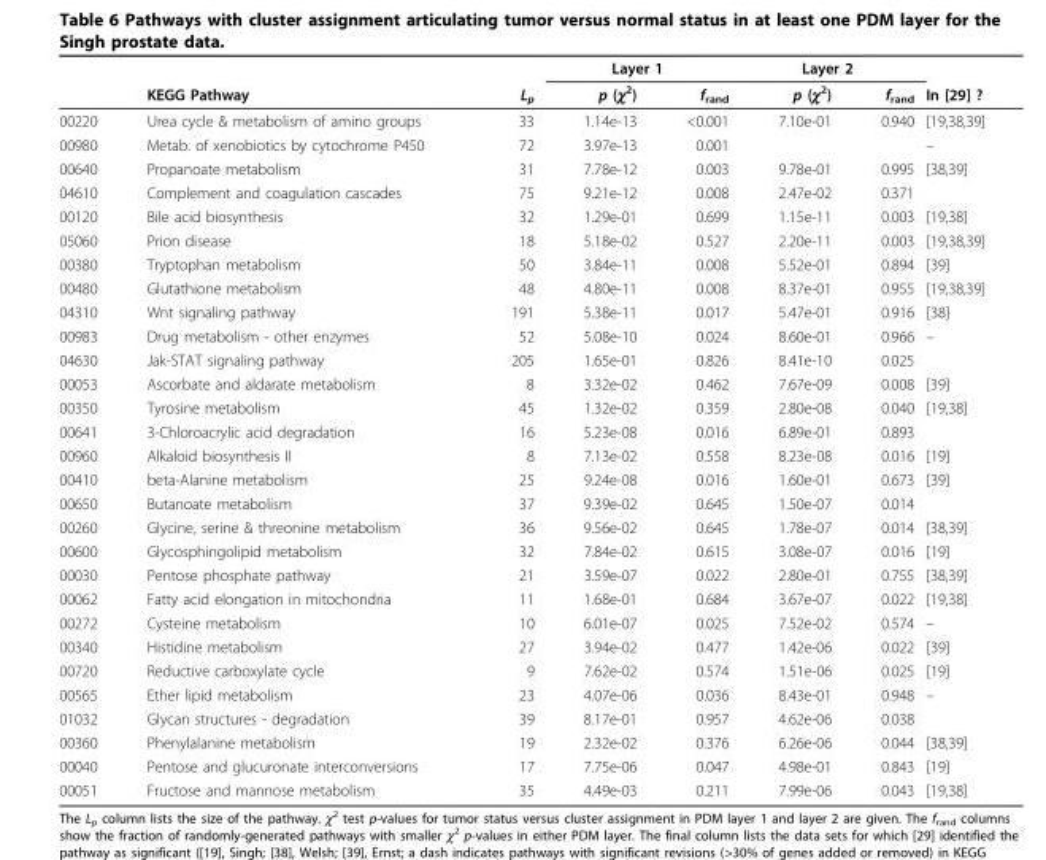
<table><thead><tr><td rowspan="2"></td><td rowspan="2">KEGG Pathway</td><td rowspan="2">L<sub>p</sub></td><td colspan="2">Layer 1</td><td colspan="2">Layer 2</td><td rowspan="2">In [29] ?</td></tr><tr><td>p (χ<sup>2</sup>)</td><td>f<sub>rand</sub></td><td>p (χ<sup>2</sup>)</td><td>f<sub>rand</sub></td></tr></thead><tbody><tr><td>00220</td><td>Urea cycle &amp; metabolism of amino groups</td><td>33</td><td>1.14e-13</td><td>&lt;0.001</td><td>7.10e-01</td><td>0.940</td><td>[19,38,39]</td></tr><tr><td>00980</td><td>Metab. of xenobiotics by cytochrome P450</td><td>72</td><td>3.97e-13</td><td>0.001</td><td></td><td></td><td>–</td></tr><tr><td>00640</td><td>Propanoate metabolism</td><td>31</td><td>7.78e-12</td><td>0.003</td><td>9.78e-01</td><td>0.995</td><td>[38,39]</td></tr><tr><td>04610</td><td>Complement and coagulation cascades</td><td>75</td><td>9.21e-12</td><td>0.008</td><td>2.47e-02</td><td>0.371</td><td></td></tr><tr><td>00120</td><td>Bile acid biosynthesis</td><td>32</td><td>1.29e-01</td><td>0.699</td><td>1.15e-11</td><td>0.003</td><td>[19,38]</td></tr><tr><td>05060</td><td>Prion disease</td><td>18</td><td>5.18e-02</td><td>0.527</td><td>2.20e-11</td><td>0.003</td><td>[19,38,39]</td></tr><tr><td>00380</td><td>Tryptophan metabolism</td><td>50</td><td>3.84e-11</td><td>0.008</td><td>5.52e-01</td><td>0.894</td><td>[39]</td></tr><tr><td>00480</td><td>Glutathione metabolism</td><td>48</td><td>4.80e-11</td><td>0.008</td><td>8.37e-01</td><td>0.955</td><td>[19,38,39]</td></tr><tr><td>04310</td><td>Wnt signaling pathway</td><td>191</td><td>5.38e-11</td><td>0.017</td><td>5.47e-01</td><td>0.916</td><td>[38]</td></tr><tr><td>00983</td><td>Drug metabolism - other enzymes</td><td>52</td><td>5.08e-10</td><td>0.024</td><td>8.60e-01</td><td>0.966</td><td>–</td></tr><tr><td>04630</td><td>Jak-STAT signaling pathway</td><td>205</td><td>1.65e-01</td><td>0.826</td><td>8.41e-10</td><td>0.025</td><td></td></tr><tr><td>00053</td><td>Ascorbate and aldarate metabolism</td><td>8</td><td>3.32e-02</td><td>0.462</td><td>7.67e-09</td><td>0.008</td><td>[39]</td></tr><tr><td>00350</td><td>Tyrosine metabolism</td><td>45</td><td>1.32e-02</td><td>0.359</td><td>2.80e-08</td><td>0.040</td><td>[19,38]</td></tr><tr><td>00641</td><td>3-Chloroacrylic acid degradation</td><td>16</td><td>5.23e-08</td><td>0.016</td><td>6.89e-01</td><td>0.893</td><td></td></tr><tr><td>00960</td><td>Alkaloid biosynthesis II</td><td>8</td><td>7.13e-02</td><td>0.558</td><td>8.23e-08</td><td>0.016</td><td>[19]</td></tr><tr><td>00410</td><td>beta-Alanine metabolism</td><td>25</td><td>9.24e-08</td><td>0.016</td><td>1.60e-01</td><td>0.673</td><td>[39]</td></tr><tr><td>00650</td><td>Butanoate metabolism</td><td>37</td><td>9.39e-02</td><td>0.645</td><td>1.50e-07</td><td>0.014</td><td></td></tr><tr><td>00260</td><td>Glycine, serine &amp; threonine metabolism</td><td>36</td><td>9.56e-02</td><td>0.645</td><td>1.78e-07</td><td>0.014</td><td>[38,39]</td></tr><tr><td>00600</td><td>Glycosphingolipid metabolism</td><td>32</td><td>7.84e-02</td><td>0.615</td><td>3.08e-07</td><td>0.016</td><td>[19]</td></tr><tr><td>00030</td><td>Pentose phosphate pathway</td><td>21</td><td>3.59e-07</td><td>0.022</td><td>2.80e-01</td><td>0.755</td><td>[38,39]</td></tr><tr><td>00062</td><td>Fatty acid elongation in mitochondria</td><td>11</td><td>1.68e-01</td><td>0.684</td><td>3.67e-07</td><td>0.022</td><td>[19,38]</td></tr><tr><td>00272</td><td>Cysteine metabolism</td><td>10</td><td>6.01e-07</td><td>0.025</td><td>7.52e-02</td><td>0.574</td><td>–</td></tr><tr><td>00340</td><td>Histidine metabolism</td><td>27</td><td>3.94e-02</td><td>0.477</td><td>1.42e-06</td><td>0.022</td><td>[39]</td></tr><tr><td>00720</td><td>Reductive carboxylate cycle</td><td>9</td><td>7.62e-02</td><td>0.574</td><td>1.51e-06</td><td>0.025</td><td>[19]</td></tr><tr><td>00565</td><td>Ether lipid metabolism</td><td>23</td><td>4.07e-06</td><td>0.036</td><td>8.43e-01</td><td>0.948</td><td>–</td></tr><tr><td>01032</td><td>Glycan structures - degradation</td><td>39</td><td>8.17e-01</td><td>0.957</td><td>4.62e-06</td><td>0.038</td><td></td></tr><tr><td>00360</td><td>Phenylalanine metabolism</td><td>19</td><td>2.32e-02</td><td>0.376</td><td>6.26e-06</td><td>0.044</td><td>[38,39]</td></tr><tr><td>00040</td><td>Pentose and glucuronate interconversions</td><td>17</td><td>7.75e-06</td><td>0.047</td><td>4.98e-01</td><td>0.843</td><td>[19]</td></tr><tr><td>00051</td><td>Fructose and mannose metabolism</td><td>35</td><td>4.49e-03</td><td>0.211</td><td>7.99e-06</td><td>0.043</td><td>[19,38]</td></tr></tbody></table>